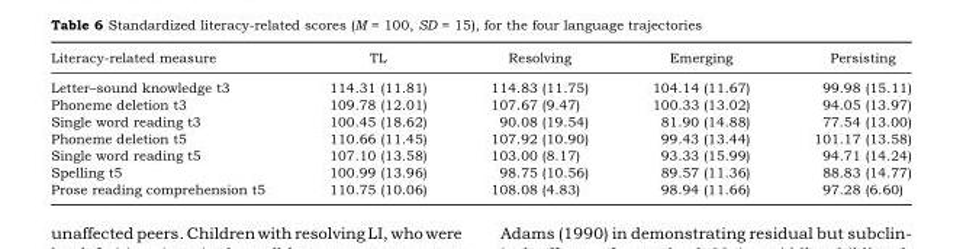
<table><thead><tr><td>Literacy-related measure</td><td>TL</td><td>Resolving</td><td>Emerging</td><td>Persisting</td></tr></thead><tbody><tr><td>Letter–sound knowledge t3</td><td>114.31 (11.81)</td><td>114.83 (11.75)</td><td>104.14 (11.67)</td><td>99.98 (15.11)</td></tr><tr><td>Phoneme deletion t3</td><td>109.78 (12.01)</td><td>107.67 (9.47)</td><td>100.33 (13.02)</td><td>94.05 (13.97)</td></tr><tr><td>Single word reading t3</td><td>100.45 (18.62)</td><td>90.08 (19.54)</td><td>81.90 (14.88)</td><td>77.54 (13.00)</td></tr><tr><td>Phoneme deletion t5</td><td>110.66 (11.45)</td><td>107.92 (10.90)</td><td>99.43 (13.44)</td><td>101.17 (13.58)</td></tr><tr><td>Single word reading t5</td><td>107.10 (13.58)</td><td>103.00 (8.17)</td><td>93.33 (15.99)</td><td>94.71 (14.24)</td></tr><tr><td>Spelling t5</td><td>100.99 (13.96)</td><td>98.75 (10.56)</td><td>89.57 (11.36)</td><td>88.83 (14.77)</td></tr><tr><td>Prose reading comprehension t5</td><td>110.75 (10.06)</td><td>108.08 (4.83)</td><td>98.94 (11.66)</td><td>97.28 (6.60)</td></tr></tbody></table>